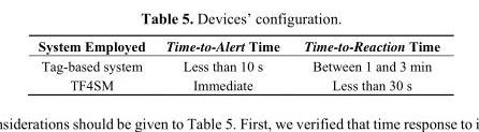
<table><thead><tr><td>System Employed</td><td>Time-to-Alert Time</td><td>Time-to-Reaction Time</td></tr></thead><tbody><tr><td>Tag-based system</td><td>Less than 10 s</td><td>Between 1 and 3 min</td></tr><tr><td>TF4SM</td><td>Immediate</td><td>Less than 30 s</td></tr></tbody></table>